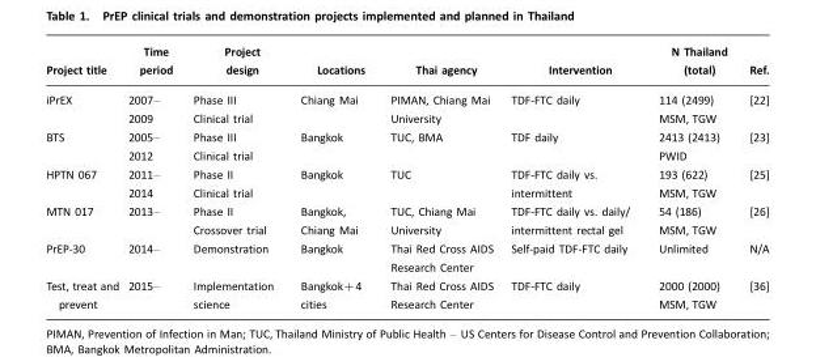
<table><thead><tr><td>Project title</td><td>Time period</td><td>Project design</td><td>Locations</td><td>Thai agency</td><td>Intervention</td><td>N Thailand (total)</td><td>Ref.</td></tr></thead><tbody><tr><td>iPrEX</td><td>2007– 2009</td><td>Phase III Clinical trial</td><td>Chiang Mai</td><td>PIMAN, Chiang Mai University</td><td>TDF-FTC daily</td><td>114 (2499) MSM, TGW</td><td>[22]</td></tr><tr><td>BTS</td><td>2005– 2012</td><td>Phase III Clinical trial</td><td>Bangkok</td><td>TUC, BMA</td><td>TDF daily</td><td>2413 (2413) PWID</td><td>[23]</td></tr><tr><td>HPTN 067</td><td>2011– 2014</td><td>Phase II Clinical trial</td><td>Bangkok</td><td>TUC</td><td>TDF-FTC daily vs. intermittent</td><td>193 (622) MSM, TGW</td><td>[25]</td></tr><tr><td>MTN 017</td><td>2013–</td><td>Phase II Crossover trial</td><td>Bangkok, Chiang Mai</td><td>TUC, Chiang Mai University</td><td>TDF-FTC daily vs. daily/ intermittent rectal gel</td><td>54 (186) MSM, TGW</td><td>[26]</td></tr><tr><td>PrEP-30</td><td>2014–</td><td>Demonstration</td><td>Bangkok</td><td>Thai Red Cross AIDS Research Center</td><td>Self-paid TDF-FTC daily</td><td>Unlimited</td><td>N/A</td></tr><tr><td>Test, treat and prevent</td><td>2015–</td><td>Implementation science</td><td>Bangkok+4 cities</td><td>Thai Red Cross AIDS Research Center</td><td>TDF-FTC daily</td><td>2000 (2000) MSM, TGW</td><td>[36]</td></tr></tbody></table>